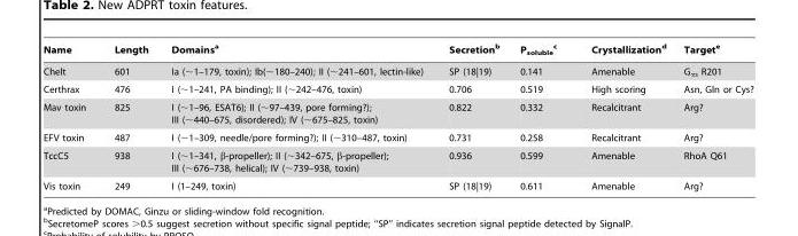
<table><thead><tr><td>Name</td><td>Length</td><td>Domains<sup>a</sup></td><td>Secretion<sup>b</sup></td><td>P<sub>soluble</sub> c</td><td>Crystallization<sup>d</sup></td><td>Target<sup>e</sup></td></tr></thead><tbody><tr><td>Chelt</td><td>601</td><td>Ia (∼1–179, toxin); Ib(∼180–240); II (∼241–601, lectin-like)</td><td>SP (18|19)</td><td>0.141</td><td>Amenable</td><td>G<sub>αs</sub> R201</td></tr><tr><td>Certhrax</td><td>476</td><td>I (∼1–241, PA binding); II (∼242–476, toxin)</td><td>0.706</td><td>0.519</td><td>High scoring</td><td>Asn, Gln or Cys?</td></tr><tr><td>Mav toxin</td><td>825</td><td>I (∼1–96, ESAT6); II (∼97–439, pore forming?); III (∼440–675, disordered); IV (∼675–825, toxin)</td><td>0.822</td><td>0.332</td><td>Recalcitrant</td><td>Arg?</td></tr><tr><td>EFV toxin</td><td>487</td><td>I (∼1–309, needle/pore forming?); II (∼310–487, toxin)</td><td>0.731</td><td>0.258</td><td>Recalcitrant</td><td>Arg?</td></tr><tr><td>TccC5</td><td>938</td><td>I (∼1–341, β-propeller); II (∼342–675, β-propeller); III (∼676–738, helical); IV (∼739–938, toxin)</td><td>0.936</td><td>0.599</td><td>Amenable</td><td>RhoA Q61</td></tr><tr><td>Vis toxin</td><td>249</td><td>I (1–249, toxin)</td><td>SP (18|19)</td><td>0.611</td><td>Amenable</td><td>Arg?</td></tr></tbody></table>